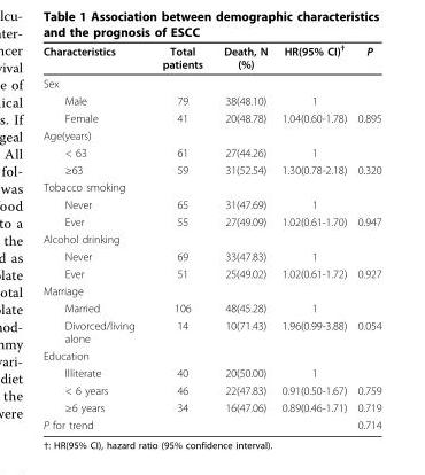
<table><thead><tr><td>Characteristics</td><td>Total patients</td><td>Death, N (%)</td><td>HR(95% CI)<sup>†</sup></td><td>P</td></tr></thead><tbody><tr><td colspan="5">Sex</td></tr><tr><td>Male</td><td>79</td><td>38(48.10)</td><td>1</td><td></td></tr><tr><td>Female</td><td>41</td><td>20(48.78)</td><td>1.04(0.60-1.78)</td><td>0.895</td></tr><tr><td colspan="5">Age(years)</td></tr><tr><td>&lt; 63</td><td>61</td><td>27(44.26)</td><td>1</td><td></td></tr><tr><td>≥63</td><td>59</td><td>31(52.54)</td><td>1.30(0.78-2.18)</td><td>0.320</td></tr><tr><td colspan="5">Tobacco smoking</td></tr><tr><td>Never</td><td>65</td><td>31(47.69)</td><td>1</td><td></td></tr><tr><td>Ever</td><td>55</td><td>27(49.09)</td><td>1.02(0.61-1.70)</td><td>0.947</td></tr><tr><td colspan="5">Alcohol drinking</td></tr><tr><td>Never</td><td>69</td><td>33(47.83)</td><td>1</td><td></td></tr><tr><td>Ever</td><td>51</td><td>25(49.02)</td><td>1.02(0.61-1.72)</td><td>0.927</td></tr><tr><td colspan="5">Marriage</td></tr><tr><td>Married</td><td>106</td><td>48(45.28)</td><td>1</td><td></td></tr><tr><td>Divorced/living alone</td><td>14</td><td>10(71.43)</td><td>1.96(0.99-3.88)</td><td>0.054</td></tr><tr><td colspan="5">Education</td></tr><tr><td>Illiterate</td><td>40</td><td>20(50.00)</td><td>1</td><td></td></tr><tr><td>&lt; 6 years</td><td>46</td><td>22(47.83)</td><td>0.91(0.50-1.67)</td><td>0.759</td></tr><tr><td>≥6 years</td><td>34</td><td>16(47.06)</td><td>0.89(0.46-1.71)</td><td>0.719</td></tr><tr><td>P for trend</td><td></td><td></td><td></td><td>0.714</td></tr></tbody></table>